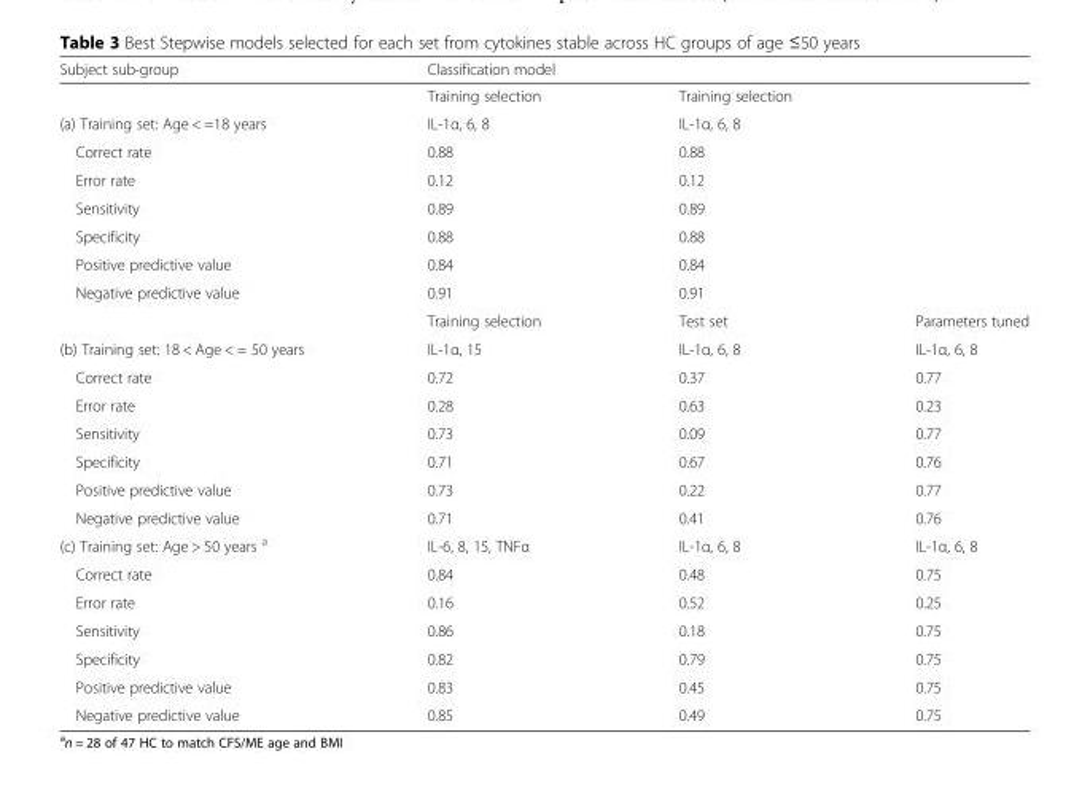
<table><thead><tr><td>Subject sub-group</td><td>Classification model</td><td></td><td></td></tr></thead><tbody><tr><td></td><td>Training selection</td><td>Training selection</td><td></td></tr><tr><td>(a) Training set: Age &lt; =18 years</td><td>IL-1α, 6, 8</td><td>IL-1α, 6, 8</td><td></td></tr><tr><td>Correct rate</td><td>0.88</td><td>0.88</td><td></td></tr><tr><td>Error rate</td><td>0.12</td><td>0.12</td><td></td></tr><tr><td>Sensitivity</td><td>0.89</td><td>0.89</td><td></td></tr><tr><td>Specificity</td><td>0.88</td><td>0.88</td><td></td></tr><tr><td>Positive predictive value</td><td>0.84</td><td>0.84</td><td></td></tr><tr><td rowspan="2">Negative predictive value</td><td>0.91</td><td>0.91</td><td></td></tr><tr><td>Training selection</td><td>Test set</td><td>Parameters tuned</td></tr><tr><td>(b) Training set: 18 &lt; Age &lt; = 50 years</td><td>IL-1α, 15</td><td>IL-1α, 6, 8</td><td>IL-1α, 6, 8</td></tr><tr><td>Correct rate</td><td>0.72</td><td>0.37</td><td>0.77</td></tr><tr><td>Error rate</td><td>0.28</td><td>0.63</td><td>0.23</td></tr><tr><td>Sensitivity</td><td>0.73</td><td>0.09</td><td>0.77</td></tr><tr><td>Specificity</td><td>0.71</td><td>0.67</td><td>0.76</td></tr><tr><td>Positive predictive value</td><td>0.73</td><td>0.22</td><td>0.77</td></tr><tr><td>Negative predictive value</td><td>0.71</td><td>0.41</td><td>0.76</td></tr><tr><td>(c) Training set: Age &gt; 50 years <sup>a</sup></td><td>IL-6, 8, 15, TNFα</td><td>IL-1α, 6, 8</td><td>IL-1α, 6, 8</td></tr><tr><td>Correct rate</td><td>0.84</td><td>0.48</td><td>0.75</td></tr><tr><td>Error rate</td><td>0.16</td><td>0.52</td><td>0.25</td></tr><tr><td>Sensitivity</td><td>0.86</td><td>0.18</td><td>0.75</td></tr><tr><td>Specificity</td><td>0.82</td><td>0.79</td><td>0.75</td></tr><tr><td>Positive predictive value</td><td>0.83</td><td>0.45</td><td>0.75</td></tr><tr><td>Negative predictive value</td><td>0.85</td><td>0.49</td><td>0.75</td></tr></tbody></table>